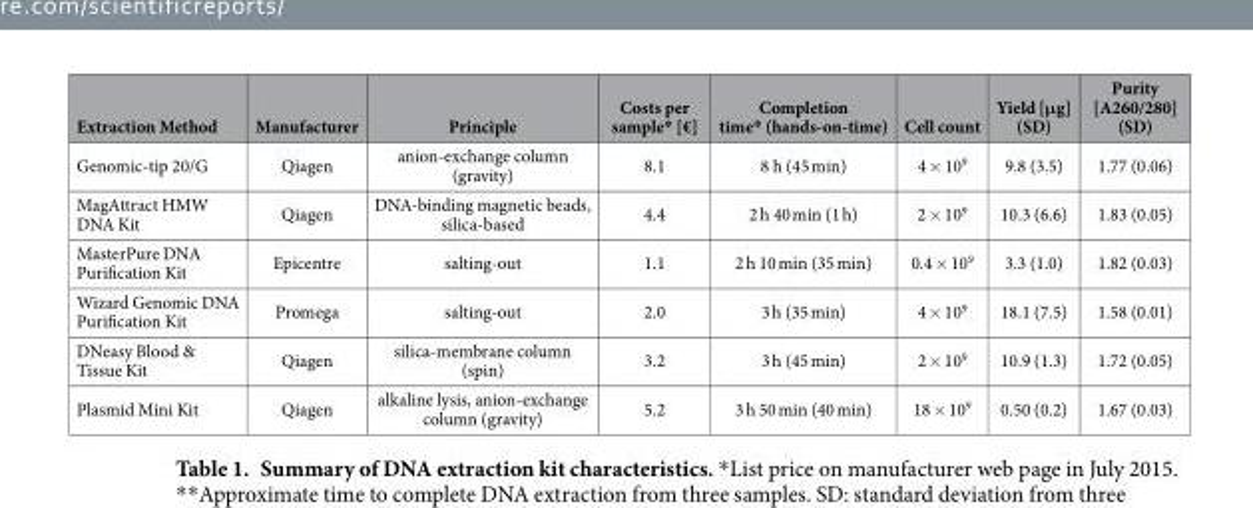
<table><thead><tr><td>Extraction Method</td><td>Manufacturer</td><td>Principle</td><td>Costs per sample* [€]</td><td>Completion time* (hands-on-time)</td><td>Cell count</td><td>Yield [μg] (SD)</td><td>Purity [A260/280] (SD)</td></tr></thead><tbody><tr><td>Genomic-tip 20/G</td><td>Qiagen</td><td>anion-exchange column (gravity)</td><td>8.1</td><td>8 h (45 min)</td><td>4 × 10<sup>9</sup></td><td>9.8 (3.5)</td><td>1.77 (0.06)</td></tr><tr><td>MagAttract HMW DNA Kit</td><td>Qiagen</td><td>DNA-binding magnetic beads, silica-based</td><td>4.4</td><td>2 h 40 min (1 h)</td><td>2 × 10<sup>9</sup></td><td>10.3 (6.6)</td><td>1.83 (0.05)</td></tr><tr><td>MasterPure DNA Purification Kit</td><td>Epicentre</td><td>salting-out</td><td>1.1</td><td>2 h 10 min (35 min)</td><td>0.4 × 10<sup>9</sup></td><td>3.3 (1.0)</td><td>1.82 (0.03)</td></tr><tr><td>Wizard Genomic DNA Purification Kit</td><td>Promega</td><td>salting-out</td><td>2.0</td><td>3 h (35 min)</td><td>4 × 10<sup>9</sup></td><td>18.1 (7.5)</td><td>1.58 (0.01)</td></tr><tr><td>DNeasy Blood &amp; Tissue Kit</td><td>Qiagen</td><td>silica-membrane column (spin)</td><td>3.2</td><td>3 h (45 min)</td><td>2 × 10<sup>9</sup></td><td>10.9 (1.3)</td><td>1.72 (0.05)</td></tr><tr><td>Plasmid Mini Kit</td><td>Qiagen</td><td>alkaline lysis, anion-exchange column (gravity)</td><td>5.2</td><td>3 h 50 min (40 min)</td><td>18 × 10<sup>9</sup></td><td>0.50 (0.2)</td><td>1.67 (0.03)</td></tr></tbody></table>